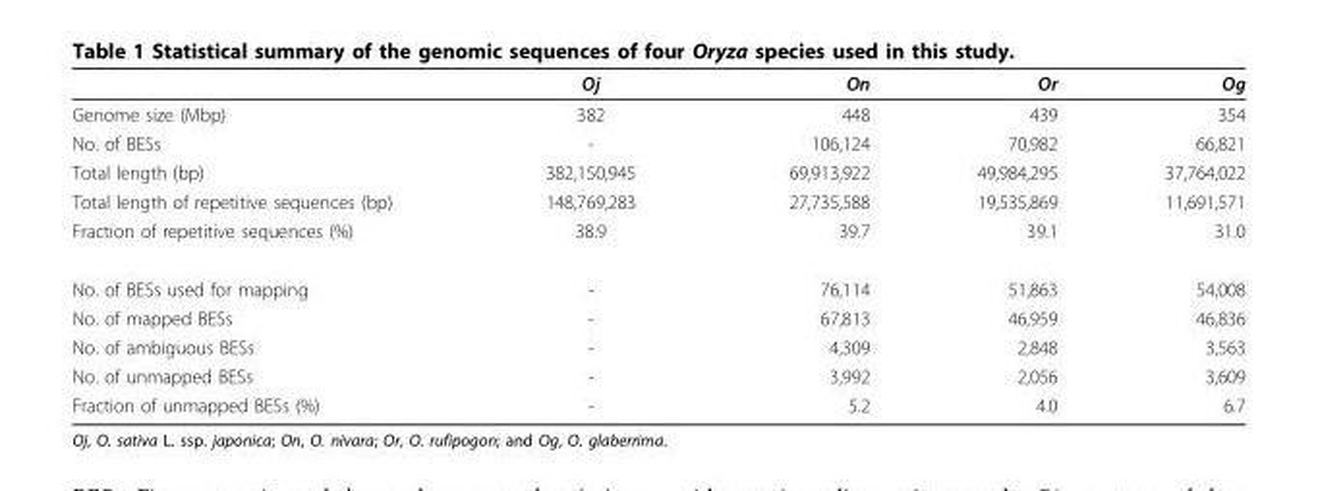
<table><thead><tr><td></td><td>Oj</td><td>On</td><td>Or</td><td>Og</td></tr></thead><tbody><tr><td>Genome size (Mbp)</td><td>382</td><td>448</td><td>439</td><td>354</td></tr><tr><td>No. of BESs</td><td>-</td><td>106,124</td><td>70,982</td><td>66,821</td></tr><tr><td>Total length (bp)</td><td>382,150,945</td><td>69,913,922</td><td>49,984,295</td><td>37,764,022</td></tr><tr><td>Total length of repetitive sequences (bp)</td><td>148,769,283</td><td>27,735,588</td><td>19,535,869</td><td>11,691,571</td></tr><tr><td>Fraction of repetitive sequences (%)</td><td>38.9</td><td>39.7</td><td>39.1</td><td>31.0</td></tr><tr><td>No. of BESs used for mapping</td><td>-</td><td>76,114</td><td>51,863</td><td>54,008</td></tr><tr><td>No. of mapped BESs</td><td>-</td><td>67,813</td><td>46,959</td><td>46,836</td></tr><tr><td>No. of ambiguous BESs</td><td>-</td><td>4,309</td><td>2,848</td><td>3,563</td></tr><tr><td>No. of unmapped BESs</td><td>-</td><td>3,992</td><td>2,056</td><td>3,609</td></tr><tr><td>Fraction of unmapped BESs (%)</td><td>-</td><td>5.2</td><td>4.0</td><td>6.7</td></tr></tbody></table>